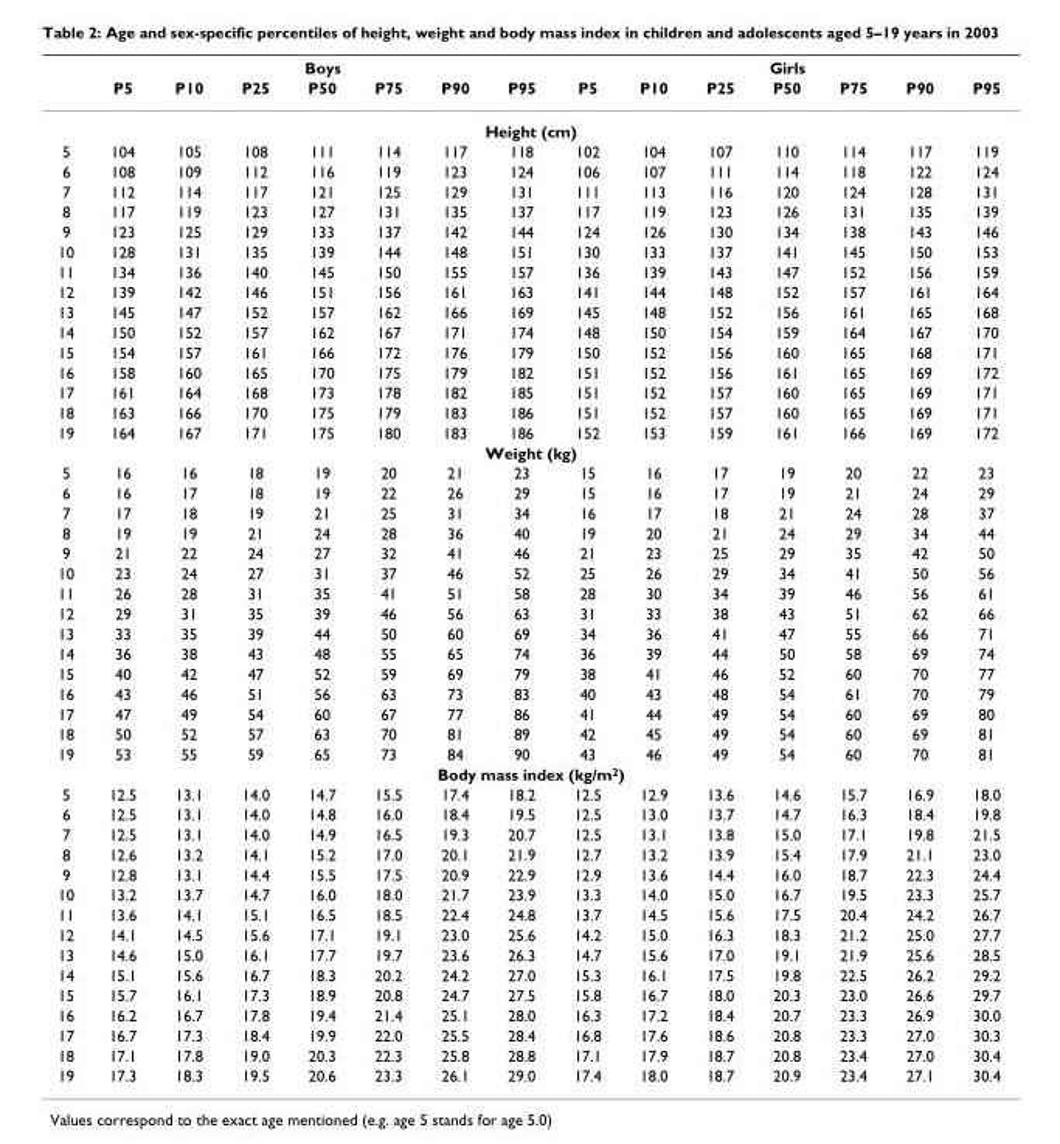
<table><thead><tr><td rowspan="2"></td><td colspan="7">Boys</td><td colspan="7">Girls</td></tr><tr><td>P5</td><td>P10</td><td>P25</td><td>P50</td><td>P75</td><td>P90</td><td>P95</td><td>P5</td><td>P10</td><td>P25</td><td>P50</td><td>P75</td><td>P90</td><td>P95</td></tr></thead><tbody><tr><td colspan="15">Height (cm)</td></tr><tr><td>5</td><td>104</td><td>105</td><td>108</td><td>111</td><td>114</td><td>117</td><td>118</td><td>102</td><td>104</td><td>107</td><td>110</td><td>114</td><td>117</td><td>119</td></tr><tr><td>6</td><td>108</td><td>109</td><td>112</td><td>116</td><td>119</td><td>123</td><td>124</td><td>106</td><td>107</td><td>111</td><td>114</td><td>118</td><td>122</td><td>124</td></tr><tr><td>7</td><td>112</td><td>114</td><td>117</td><td>121</td><td>125</td><td>129</td><td>131</td><td>111</td><td>113</td><td>116</td><td>120</td><td>124</td><td>128</td><td>131</td></tr><tr><td>8</td><td>117</td><td>119</td><td>123</td><td>127</td><td>131</td><td>135</td><td>137</td><td>117</td><td>119</td><td>123</td><td>126</td><td>131</td><td>135</td><td>139</td></tr><tr><td>9</td><td>123</td><td>125</td><td>129</td><td>133</td><td>137</td><td>142</td><td>144</td><td>124</td><td>126</td><td>130</td><td>134</td><td>138</td><td>143</td><td>146</td></tr><tr><td>10</td><td>128</td><td>131</td><td>135</td><td>139</td><td>144</td><td>148</td><td>151</td><td>130</td><td>133</td><td>137</td><td>141</td><td>145</td><td>150</td><td>153</td></tr><tr><td>11</td><td>134</td><td>136</td><td>140</td><td>145</td><td>150</td><td>155</td><td>157</td><td>136</td><td>139</td><td>143</td><td>147</td><td>152</td><td>156</td><td>159</td></tr><tr><td>12</td><td>139</td><td>142</td><td>146</td><td>151</td><td>156</td><td>161</td><td>163</td><td>141</td><td>144</td><td>148</td><td>152</td><td>157</td><td>161</td><td>164</td></tr><tr><td>13</td><td>145</td><td>147</td><td>152</td><td>157</td><td>162</td><td>166</td><td>169</td><td>145</td><td>148</td><td>152</td><td>156</td><td>161</td><td>165</td><td>168</td></tr><tr><td>14</td><td>150</td><td>152</td><td>157</td><td>162</td><td>167</td><td>171</td><td>174</td><td>148</td><td>150</td><td>154</td><td>159</td><td>164</td><td>167</td><td>170</td></tr><tr><td>15</td><td>154</td><td>157</td><td>161</td><td>166</td><td>172</td><td>176</td><td>179</td><td>150</td><td>152</td><td>156</td><td>160</td><td>165</td><td>168</td><td>171</td></tr><tr><td>16</td><td>158</td><td>160</td><td>165</td><td>170</td><td>175</td><td>179</td><td>182</td><td>151</td><td>152</td><td>156</td><td>161</td><td>165</td><td>169</td><td>172</td></tr><tr><td>17</td><td>161</td><td>164</td><td>168</td><td>173</td><td>178</td><td>182</td><td>185</td><td>151</td><td>152</td><td>157</td><td>160</td><td>165</td><td>169</td><td>171</td></tr><tr><td>18</td><td>163</td><td>166</td><td>170</td><td>175</td><td>179</td><td>183</td><td>186</td><td>151</td><td>152</td><td>157</td><td>160</td><td>165</td><td>169</td><td>171</td></tr><tr><td>19</td><td>164</td><td>167</td><td>171</td><td>175</td><td>180</td><td>183</td><td>186</td><td>152</td><td>153</td><td>159</td><td>161</td><td>166</td><td>169</td><td>172</td></tr><tr><td colspan="15">Weight (kg)</td></tr><tr><td>5</td><td>16</td><td>16</td><td>18</td><td>19</td><td>20</td><td>21</td><td>23</td><td>15</td><td>16</td><td>17</td><td>19</td><td>20</td><td>22</td><td>23</td></tr><tr><td>6</td><td>16</td><td>17</td><td>18</td><td>19</td><td>22</td><td>26</td><td>29</td><td>15</td><td>16</td><td>17</td><td>19</td><td>21</td><td>24</td><td>29</td></tr><tr><td>7</td><td>17</td><td>18</td><td>19</td><td>21</td><td>25</td><td>31</td><td>34</td><td>16</td><td>17</td><td>18</td><td>21</td><td>24</td><td>28</td><td>37</td></tr><tr><td>8</td><td>19</td><td>19</td><td>21</td><td>24</td><td>28</td><td>36</td><td>40</td><td>19</td><td>20</td><td>21</td><td>24</td><td>29</td><td>34</td><td>44</td></tr><tr><td>9</td><td>21</td><td>22</td><td>24</td><td>27</td><td>32</td><td>41</td><td>46</td><td>21</td><td>23</td><td>25</td><td>29</td><td>35</td><td>42</td><td>50</td></tr><tr><td>10</td><td>23</td><td>24</td><td>27</td><td>31</td><td>37</td><td>46</td><td>52</td><td>25</td><td>26</td><td>29</td><td>34</td><td>41</td><td>50</td><td>56</td></tr><tr><td>11</td><td>26</td><td>28</td><td>31</td><td>35</td><td>41</td><td>51</td><td>58</td><td>28</td><td>30</td><td>34</td><td>39</td><td>46</td><td>56</td><td>61</td></tr><tr><td>12</td><td>29</td><td>31</td><td>35</td><td>39</td><td>46</td><td>56</td><td>63</td><td>31</td><td>33</td><td>38</td><td>43</td><td>51</td><td>62</td><td>66</td></tr><tr><td>13</td><td>33</td><td>35</td><td>39</td><td>44</td><td>50</td><td>60</td><td>69</td><td>34</td><td>36</td><td>41</td><td>47</td><td>55</td><td>66</td><td>71</td></tr><tr><td>14</td><td>36</td><td>38</td><td>43</td><td>48</td><td>55</td><td>65</td><td>74</td><td>36</td><td>39</td><td>44</td><td>50</td><td>58</td><td>69</td><td>74</td></tr><tr><td>15</td><td>40</td><td>42</td><td>47</td><td>52</td><td>59</td><td>69</td><td>79</td><td>38</td><td>41</td><td>46</td><td>52</td><td>60</td><td>70</td><td>77</td></tr><tr><td>16</td><td>43</td><td>46</td><td>51</td><td>56</td><td>63</td><td>73</td><td>83</td><td>40</td><td>43</td><td>48</td><td>54</td><td>61</td><td>70</td><td>79</td></tr><tr><td>17</td><td>47</td><td>49</td><td>54</td><td>60</td><td>67</td><td>77</td><td>86</td><td>41</td><td>44</td><td>49</td><td>54</td><td>60</td><td>69</td><td>80</td></tr><tr><td>18</td><td>50</td><td>52</td><td>57</td><td>63</td><td>70</td><td>81</td><td>89</td><td>42</td><td>45</td><td>49</td><td>54</td><td>60</td><td>69</td><td>81</td></tr><tr><td>19</td><td>53</td><td>55</td><td>59</td><td>65</td><td>73</td><td>84</td><td>90</td><td>43</td><td>46</td><td>49</td><td>54</td><td>60</td><td>70</td><td>81</td></tr><tr><td colspan="15">Body mass index (kg/m2)</td></tr><tr><td>5</td><td>12.5</td><td>13.1</td><td>14.0</td><td>14.7</td><td>15.5</td><td>17.4</td><td>18.2</td><td>12.5</td><td>12.9</td><td>13.6</td><td>14.6</td><td>15.7</td><td>16.9</td><td>18.0</td></tr><tr><td>6</td><td>12.5</td><td>13.1</td><td>14.0</td><td>14.8</td><td>16.0</td><td>18.4</td><td>19.5</td><td>12.5</td><td>13.0</td><td>13.7</td><td>14.7</td><td>16.3</td><td>18.4</td><td>19.8</td></tr><tr><td>7</td><td>12.5</td><td>13.1</td><td>14.0</td><td>14.9</td><td>16.5</td><td>19.3</td><td>20.7</td><td>12.5</td><td>13.1</td><td>13.8</td><td>15.0</td><td>17.1</td><td>19.8</td><td>21.5</td></tr><tr><td>8</td><td>12.6</td><td>13.2</td><td>14.1</td><td>15.2</td><td>17.0</td><td>20.1</td><td>21.9</td><td>12.7</td><td>13.2</td><td>13.9</td><td>15.4</td><td>17.9</td><td>21.1</td><td>23.0</td></tr><tr><td>9</td><td>12.8</td><td>13.1</td><td>14.4</td><td>15.5</td><td>17.5</td><td>20.9</td><td>22.9</td><td>12.9</td><td>13.6</td><td>14.4</td><td>16.0</td><td>18.7</td><td>22.3</td><td>24.4</td></tr><tr><td>10</td><td>13.2</td><td>13.7</td><td>14.7</td><td>16.0</td><td>18.0</td><td>21.7</td><td>23.9</td><td>13.3</td><td>14.0</td><td>15.0</td><td>16.7</td><td>19.5</td><td>23.3</td><td>25.7</td></tr><tr><td>11</td><td>13.6</td><td>14.1</td><td>15.1</td><td>16.5</td><td>18.5</td><td>22.4</td><td>24.8</td><td>13.7</td><td>14.5</td><td>15.6</td><td>17.5</td><td>20.4</td><td>24.2</td><td>26.7</td></tr><tr><td>12</td><td>14.1</td><td>14.5</td><td>15.6</td><td>17.1</td><td>19.1</td><td>23.0</td><td>25.6</td><td>14.2</td><td>15.0</td><td>16.3</td><td>18.3</td><td>21.2</td><td>25.0</td><td>27.7</td></tr><tr><td>13</td><td>14.6</td><td>15.0</td><td>16.1</td><td>17.7</td><td>19.7</td><td>23.6</td><td>26.3</td><td>14.7</td><td>15.6</td><td>17.0</td><td>19.1</td><td>21.9</td><td>25.6</td><td>28.5</td></tr><tr><td>14</td><td>15.1</td><td>15.6</td><td>16.7</td><td>18.3</td><td>20.2</td><td>24.2</td><td>27.0</td><td>15.3</td><td>16.1</td><td>17.5</td><td>19.8</td><td>22.5</td><td>26.2</td><td>29.2</td></tr><tr><td>15</td><td>15.7</td><td>16.1</td><td>17.3</td><td>18.9</td><td>20.8</td><td>24.7</td><td>27.5</td><td>15.8</td><td>16.7</td><td>18.0</td><td>20.3</td><td>23.0</td><td>26.6</td><td>29.7</td></tr><tr><td>16</td><td>16.2</td><td>16.7</td><td>17.8</td><td>19.4</td><td>21.4</td><td>25.1</td><td>28.0</td><td>16.3</td><td>17.2</td><td>18.4</td><td>20.7</td><td>23.3</td><td>26.9</td><td>30.0</td></tr><tr><td>17</td><td>16.7</td><td>17.3</td><td>18.4</td><td>19.9</td><td>22.0</td><td>25.5</td><td>28.4</td><td>16.8</td><td>17.6</td><td>18.6</td><td>20.8</td><td>23.3</td><td>27.0</td><td>30.3</td></tr><tr><td>18</td><td>17.1</td><td>17.8</td><td>19.0</td><td>20.3</td><td>22.3</td><td>25.8</td><td>28.8</td><td>17.1</td><td>17.9</td><td>18.7</td><td>20.8</td><td>23.4</td><td>27.0</td><td>30.4</td></tr><tr><td>19</td><td>17.3</td><td>18.3</td><td>19.5</td><td>20.6</td><td>23.3</td><td>26.1</td><td>29.0</td><td>17.4</td><td>18.0</td><td>18.7</td><td>20.9</td><td>23.4</td><td>27.1</td><td>30.4</td></tr></tbody></table>